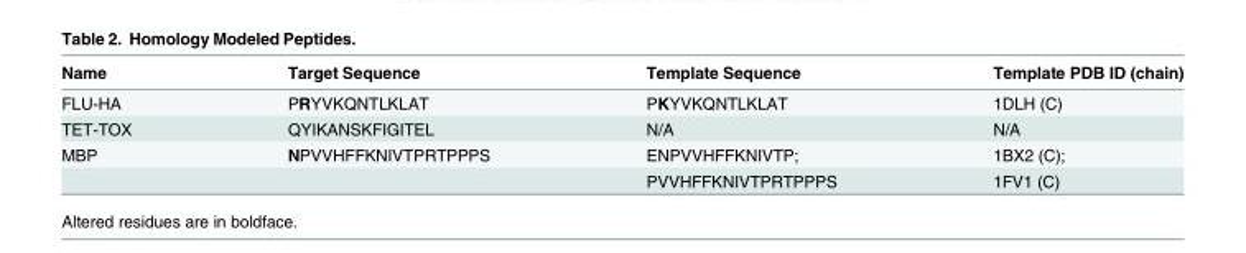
<table><thead><tr><td>Name</td><td>Target Sequence</td><td>Template Sequence</td><td>Template PDB ID (chain)</td></tr></thead><tbody><tr><td>FLU-HA</td><td>PRYVKQNTLKLAT</td><td>PKYVKQNTLKLAT</td><td>1DLH (C)</td></tr><tr><td>TET-TOX</td><td>QYIKANSKFIGITEL</td><td>N/A</td><td>N/A</td></tr><tr><td rowspan="2">MBP</td><td>NPVVHFFKNIVTPRTPPPS</td><td>ENPVVHFFKNIVTP;</td><td>1BX2 (C);</td></tr><tr><td></td><td>PVVHFFKNIVTPRTPPPS</td><td>1FV1 (C)</td></tr></tbody></table>